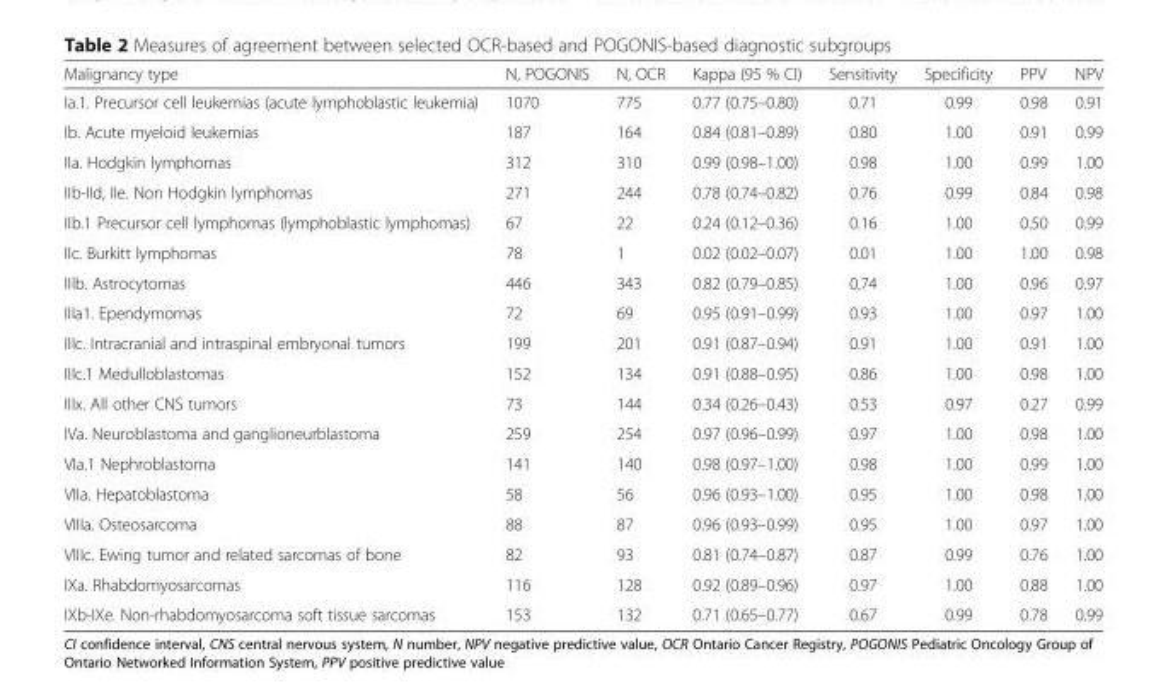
<table><thead><tr><td>Malignancy type</td><td>N, POGONIS</td><td>N, OCR</td><td>Kappa (95 % CI)</td><td>Sensitivity</td><td>Specificity</td><td>PPV</td><td>NPV</td></tr></thead><tbody><tr><td>Ia.1. Precursor cell leukemias (acute lymphoblastic leukemia)</td><td>1070</td><td>775</td><td>0.77 (0.75–0.80)</td><td>0.71</td><td>0.99</td><td>0.98</td><td>0.91</td></tr><tr><td>Ib. Acute myeloid leukemias</td><td>187</td><td>164</td><td>0.84 (0.81–0.89)</td><td>0.80</td><td>1.00</td><td>0.91</td><td>0.99</td></tr><tr><td>IIa. Hodgkin lymphomas</td><td>312</td><td>310</td><td>0.99 (0.98–1.00)</td><td>0.98</td><td>1.00</td><td>0.99</td><td>1.00</td></tr><tr><td>IIb-IId, IIe. Non Hodgkin lymphomas</td><td>271</td><td>244</td><td>0.78 (0.74–0.82)</td><td>0.76</td><td>0.99</td><td>0.84</td><td>0.98</td></tr><tr><td>IIb.1 Precursor cell lymphomas (lymphoblastic lymphomas)</td><td>67</td><td>22</td><td>0.24 (0.12–0.36)</td><td>0.16</td><td>1.00</td><td>0.50</td><td>0.99</td></tr><tr><td>IIc. Burkitt lymphomas</td><td>78</td><td>1</td><td>0.02 (0.02–0.07)</td><td>0.01</td><td>1.00</td><td>1.00</td><td>0.98</td></tr><tr><td>IIIb. Astrocytomas</td><td>446</td><td>343</td><td>0.82 (0.79–0.85)</td><td>0.74</td><td>1.00</td><td>0.96</td><td>0.97</td></tr><tr><td>IIIa1. Ependymomas</td><td>72</td><td>69</td><td>0.95 (0.91–0.99)</td><td>0.93</td><td>1.00</td><td>0.97</td><td>1.00</td></tr><tr><td>IIIc. Intracranial and intraspinal embryonal tumors</td><td>199</td><td>201</td><td>0.91 (0.87–0.94)</td><td>0.91</td><td>1.00</td><td>0.91</td><td>1.00</td></tr><tr><td>IIIc.1 Medulloblastomas</td><td>152</td><td>134</td><td>0.91 (0.88–0.95)</td><td>0.86</td><td>1.00</td><td>0.98</td><td>1.00</td></tr><tr><td>IIIx. All other CNS tumors</td><td>73</td><td>144</td><td>0.34 (0.26–0.43)</td><td>0.53</td><td>0.97</td><td>0.27</td><td>0.99</td></tr><tr><td>IVa. Neuroblastoma and ganglioneurblastoma</td><td>259</td><td>254</td><td>0.97 (0.96–0.99)</td><td>0.97</td><td>1.00</td><td>0.98</td><td>1.00</td></tr><tr><td>VIa.1 Nephroblastoma</td><td>141</td><td>140</td><td>0.98 (0.97–1.00)</td><td>0.98</td><td>1.00</td><td>0.99</td><td>1.00</td></tr><tr><td>VIIa. Hepatoblastoma</td><td>58</td><td>56</td><td>0.96 (0.93–1.00)</td><td>0.95</td><td>1.00</td><td>0.98</td><td>1.00</td></tr><tr><td>VIIIa. Osteosarcoma</td><td>88</td><td>87</td><td>0.96 (0.93–0.99)</td><td>0.95</td><td>1.00</td><td>0.97</td><td>1.00</td></tr><tr><td>VIIIc. Ewing tumor and related sarcomas of bone</td><td>82</td><td>93</td><td>0.81 (0.74–0.87)</td><td>0.87</td><td>0.99</td><td>0.76</td><td>1.00</td></tr><tr><td>IXa. Rhabdomyosarcomas</td><td>116</td><td>128</td><td>0.92 (0.89–0.96)</td><td>0.97</td><td>1.00</td><td>0.88</td><td>1.00</td></tr><tr><td>IXb-IXe. Non-rhabdomyosarcoma soft tissue sarcomas</td><td>153</td><td>132</td><td>0.71 (0.65–0.77)</td><td>0.67</td><td>0.99</td><td>0.78</td><td>0.99</td></tr></tbody></table>